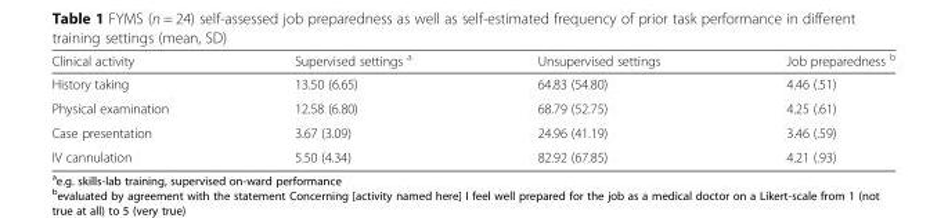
<table><thead><tr><td>Clinical activity</td><td>Supervised settings <sup>a</sup></td><td>Unsupervised settings</td><td>Job preparedness <sup>b</sup></td></tr></thead><tbody><tr><td>History taking</td><td>13.50 (6.65)</td><td>64.83 (54.80)</td><td>4.46 (.51)</td></tr><tr><td>Physical examination</td><td>12.58 (6.80)</td><td>68.79 (52.75)</td><td>4.25 (.61)</td></tr><tr><td>Case presentation</td><td>3.67 (3.09)</td><td>24.96 (41.19)</td><td>3.46 (.59)</td></tr><tr><td>IV cannulation</td><td>5.50 (4.34)</td><td>82.92 (67.85)</td><td>4.21 (.93)</td></tr></tbody></table>